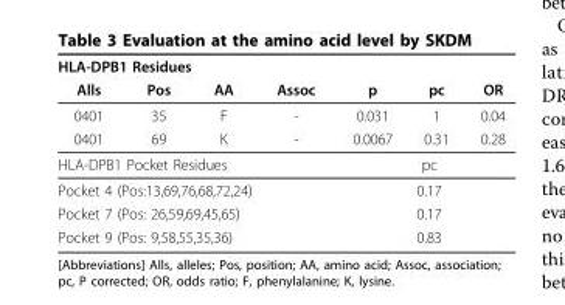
<table><thead><tr><td colspan="7">HLA-DPB1 Residues</td></tr><tr><td>Alls</td><td>Pos</td><td>AA</td><td>Assoc</td><td>p</td><td>pc</td><td>OR</td></tr></thead><tbody><tr><td>0401</td><td>35</td><td>F</td><td>-</td><td>0.031</td><td>1</td><td>0.04</td></tr><tr><td>0401</td><td>69</td><td>K</td><td>-</td><td>0.0067</td><td>0.31</td><td>0.28</td></tr><tr><td colspan="4">HLA-DPB1 Pocket Residues</td><td colspan="3">pc</td></tr><tr><td colspan="4">Pocket 4 (Pos:13,69,76,68,72,24)</td><td colspan="3">0.17</td></tr><tr><td colspan="4">Pocket 7 (Pos: 26,59,69,45,65)</td><td colspan="3">0.17</td></tr><tr><td colspan="4">Pocket 9 (Pos: 9,58,55,35,36)</td><td colspan="3">0.83</td></tr></tbody></table>